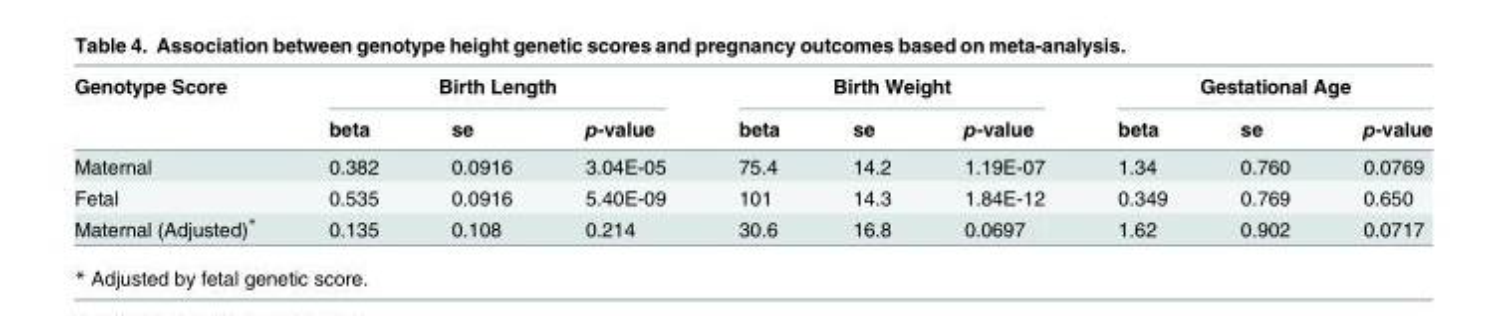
<table><thead><tr><td rowspan="2">Genotype Score</td><td colspan="3">Birth Length</td><td colspan="3">Birth Weight</td><td colspan="3">Gestational Age</td></tr><tr><td>beta</td><td>se</td><td>p-value</td><td>beta</td><td>se</td><td>p-value</td><td>beta</td><td>se</td><td>p-value</td></tr></thead><tbody><tr><td>Maternal</td><td>0.382</td><td>0.0916</td><td>3.04E-05</td><td>75.4</td><td>14.2</td><td>1.19E-07</td><td>1.34</td><td>0.760</td><td>0.0769</td></tr><tr><td>Fetal</td><td>0.535</td><td>0.0916</td><td>5.40E-09</td><td>101</td><td>14.3</td><td>1.84E-12</td><td>0.349</td><td>0.769</td><td>0.650</td></tr><tr><td>Maternal (Adjusted)*</td><td>0.135</td><td>0.108</td><td>0.214</td><td>30.6</td><td>16.8</td><td>0.0697</td><td>1.62</td><td>0.902</td><td>0.0717</td></tr></tbody></table>